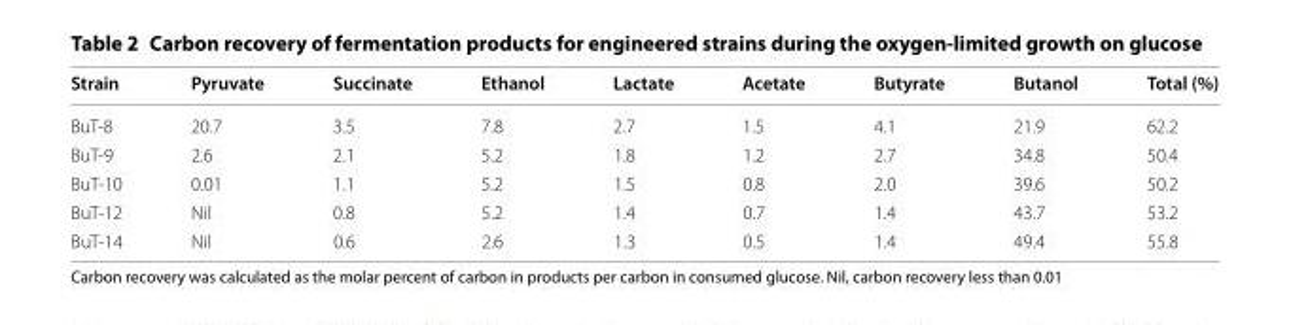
<table><thead><tr><td>Strain</td><td>Pyruvate</td><td>Succinate</td><td>Ethanol</td><td>Lactate</td><td>Acetate</td><td>Butyrate</td><td>Butanol</td><td>Total (%)</td></tr></thead><tbody><tr><td>BuT‑8</td><td>20.7</td><td>3.5</td><td>7.8</td><td>2.7</td><td>1.5</td><td>4.1</td><td>21.9</td><td>62.2</td></tr><tr><td>BuT‑9</td><td>2.6</td><td>2.1</td><td>5.2</td><td>1.8</td><td>1.2</td><td>2.7</td><td>34.8</td><td>50.4</td></tr><tr><td>BuT‑10</td><td>0.01</td><td>1.1</td><td>5.2</td><td>1.5</td><td>0.8</td><td>2.0</td><td>39.6</td><td>50.2</td></tr><tr><td>BuT‑12</td><td>Nil</td><td>0.8</td><td>5.2</td><td>1.4</td><td>0.7</td><td>1.4</td><td>43.7</td><td>53.2</td></tr><tr><td>BuT‑14</td><td>Nil</td><td>0.6</td><td>2.6</td><td>1.3</td><td>0.5</td><td>1.4</td><td>49.4</td><td>55.8</td></tr></tbody></table>